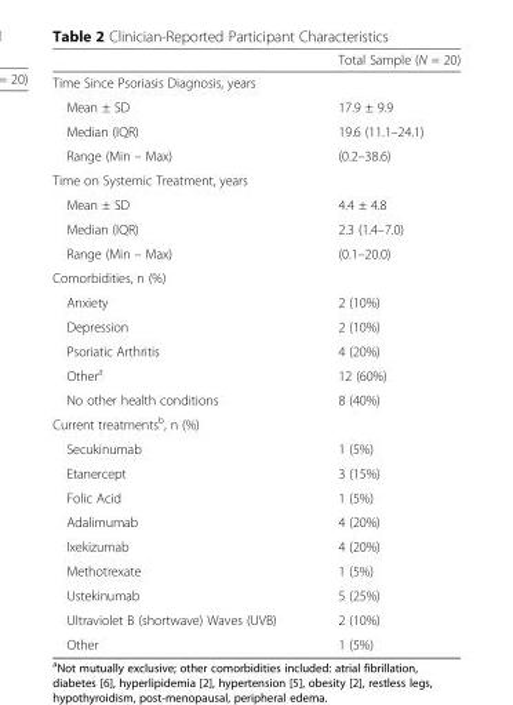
<table><thead><tr><td></td><td>Total Sample (N = 20)</td></tr></thead><tbody><tr><td colspan="2">Time Since Psoriasis Diagnosis, years</td></tr><tr><td>Mean ± SD</td><td>17.9 ± 9.9</td></tr><tr><td>Median (IQR)</td><td>19.6 (11.1–24.1)</td></tr><tr><td>Range (Min – Max)</td><td>(0.2–38.6)</td></tr><tr><td colspan="2">Time on Systemic Treatment, years</td></tr><tr><td>Mean ± SD</td><td>4.4 ± 4.8</td></tr><tr><td>Median (IQR)</td><td>2.3 (1.4–7.0)</td></tr><tr><td>Range (Min – Max)</td><td>(0.1–20.0)</td></tr><tr><td colspan="2">Comorbidities, n (%)</td></tr><tr><td>Anxiety</td><td>2 (10%)</td></tr><tr><td>Depression</td><td>2 (10%)</td></tr><tr><td>Psoriatic Arthritis</td><td>4 (20%)</td></tr><tr><td>Other<sup>a</sup></td><td>12 (60%)</td></tr><tr><td>No other health conditions</td><td>8 (40%)</td></tr><tr><td colspan="2">Current treatments<sup>b</sup>, n (%)</td></tr><tr><td>Secukinumab</td><td>1 (5%)</td></tr><tr><td>Etanercept</td><td>3 (15%)</td></tr><tr><td>Folic Acid</td><td>1 (5%)</td></tr><tr><td>Adalimumab</td><td>4 (20%)</td></tr><tr><td>Ixekizumab</td><td>4 (20%)</td></tr><tr><td>Methotrexate</td><td>1 (5%)</td></tr><tr><td>Ustekinumab</td><td>5 (25%)</td></tr><tr><td>Ultraviolet B (shortwave) Waves (UVB)</td><td>2 (10%)</td></tr><tr><td>Other</td><td>1 (5%)</td></tr></tbody></table>